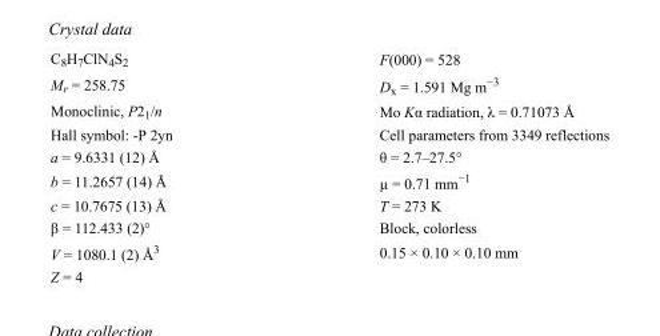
<table><tbody><tr><td>C<sub>8</sub>H<sub>7</sub>ClN<sub>4</sub>S<sub>2</sub></td><td>F(000) = 528</td></tr><tr><td>M<sub>r</sub> = 258.75</td><td>D<sub>x</sub> = 1.591 Mg m<sup>−3</sup></td></tr><tr><td>Monoclinic, P2<sub>1</sub>/n</td><td>Mo Kα radiation, λ = 0.71073 Å</td></tr><tr><td>Hall symbol: -P 2yn</td><td>Cell parameters from 3349 reflections</td></tr><tr><td>a = 9.6331 (12) Å</td><td>θ = 2.7–27.5°</td></tr><tr><td>b = 11.2657 (14) Å</td><td>µ = 0.71 mm<sup>−1</sup></td></tr><tr><td>c = 10.7675 (13) Å</td><td>T = 273 K</td></tr><tr><td>β = 112.433 (2)°</td><td>Block, colorless</td></tr><tr><td>V = 1080.1 (2) Å<sup>3</sup></td><td>0.15 × 0.10 × 0.10 mm</td></tr><tr><td>Z = 4</td><td></td></tr></tbody></table>